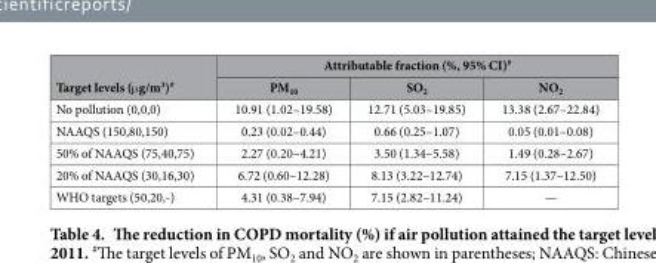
<table><thead><tr><td rowspan="2">Target levels (μ g/m<sup>3</sup>)#</td><td colspan="3">Attributable fraction (%, 95% CI)#</td></tr><tr><td>PM<sub>10</sub></td><td>SO<sub>2</sub></td><td>NO<sub>2</sub></td></tr></thead><tbody><tr><td>No pollution (0,0,0)</td><td>10.91 (1.02–19.58)</td><td>12.71 (5.03–19.85)</td><td>13.38 (2.67–22.84)</td></tr><tr><td>NAAQS (150,80,150)</td><td>0.23 (0.02–0.44)</td><td>0.66 (0.25–1.07)</td><td>0.05 (0.01–0.08)</td></tr><tr><td>50% of NAAQS (75,40,75)</td><td>2.27 (0.20–4.21)</td><td>3.50 (1.34–5.58)</td><td>1.49 (0.28–2.67)</td></tr><tr><td>20% of NAAQS (30,16,30)</td><td>6.72 (0.60–12.28)</td><td>8.13 (3.22–12.74)</td><td>7.15 (1.37–12.50)</td></tr><tr><td>WHO targets (50,20,-)</td><td>4.31 (0.38–7.94)</td><td>7.15 (2.82–11.24)</td><td>—</td></tr></tbody></table>